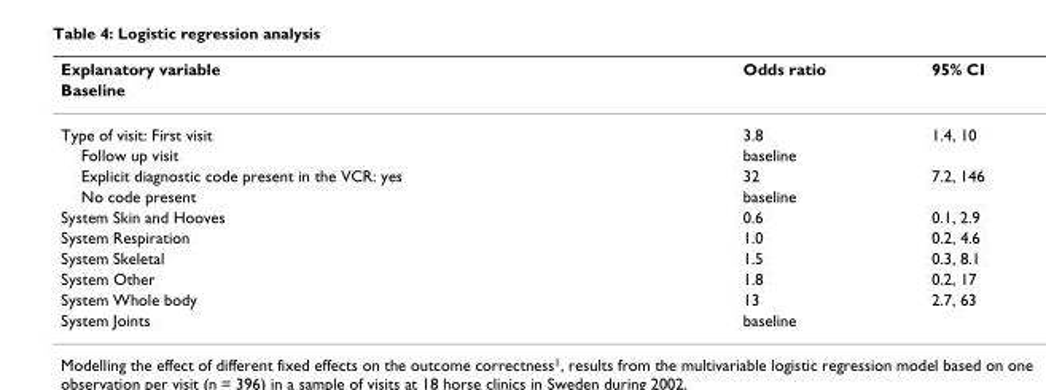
<table><thead><tr><td rowspan="2">Explanatory variable Baseline</td><td rowspan="2">Odds ratio</td><td rowspan="2">95% CI</td></tr><tr></tr></thead><tbody><tr><td>Type of visit: First visit</td><td>3.8</td><td>1.4, 10</td></tr><tr><td>Follow up visit</td><td>baseline</td><td></td></tr><tr><td>Explicit diagnostic code present in the VCR: yes</td><td>32</td><td>7.2, 146</td></tr><tr><td>No code present</td><td>baseline</td><td></td></tr><tr><td>System Skin and Hooves</td><td>0.6</td><td>0.1, 2.9</td></tr><tr><td>System Respiration</td><td>1.0</td><td>0.2, 4.6</td></tr><tr><td>System Skeletal</td><td>1.5</td><td>0.3, 8.1</td></tr><tr><td>System Other</td><td>1.8</td><td>0.2, 17</td></tr><tr><td>System Whole body</td><td>13</td><td>2.7, 63</td></tr><tr><td>System Joints</td><td>baseline</td><td></td></tr></tbody></table>